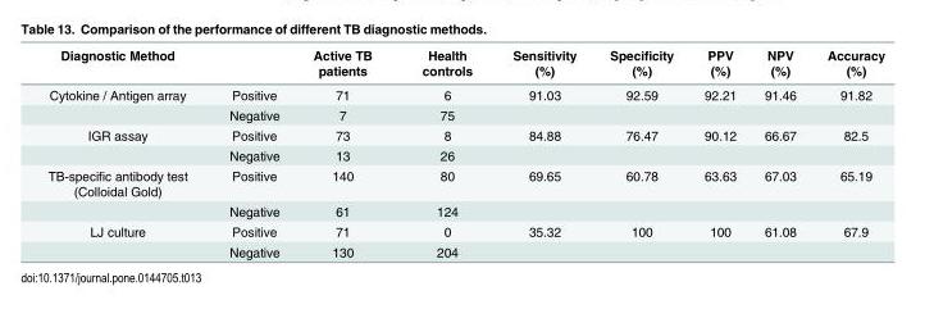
<table><thead><tr><td>Diagnostic Method</td><td></td><td>Active TB patients</td><td>Health controls</td><td>Sensitivity (%)</td><td>Specificity (%)</td><td>PPV (%)</td><td>NPV (%)</td><td>Accuracy (%)</td></tr></thead><tbody><tr><td rowspan="2">Cytokine / Antigen array</td><td>Positive</td><td>71</td><td>6</td><td>91.03</td><td>92.59</td><td>92.21</td><td>91.46</td><td>91.82</td></tr><tr><td>Negative</td><td>7</td><td>75</td><td></td><td></td><td></td><td></td><td></td></tr><tr><td rowspan="2">IGR assay</td><td>Positive</td><td>73</td><td>8</td><td>84.88</td><td>76.47</td><td>90.12</td><td>66.67</td><td>82.5</td></tr><tr><td>Negative</td><td>13</td><td>26</td><td></td><td></td><td></td><td></td><td></td></tr><tr><td rowspan="2">TB-specific antibody test (Colloidal Gold)</td><td>Positive</td><td>140</td><td>80</td><td>69.65</td><td>60.78</td><td>63.63</td><td>67.03</td><td>65.19</td></tr><tr><td>Negative</td><td>61</td><td>124</td><td></td><td></td><td></td><td></td><td></td></tr><tr><td rowspan="2">LJ culture</td><td>Positive</td><td>71</td><td>0</td><td>35.32</td><td>100</td><td>100</td><td>61.08</td><td>67.9</td></tr><tr><td>Negative</td><td>130</td><td>204</td><td></td><td></td><td></td><td></td><td></td></tr></tbody></table>